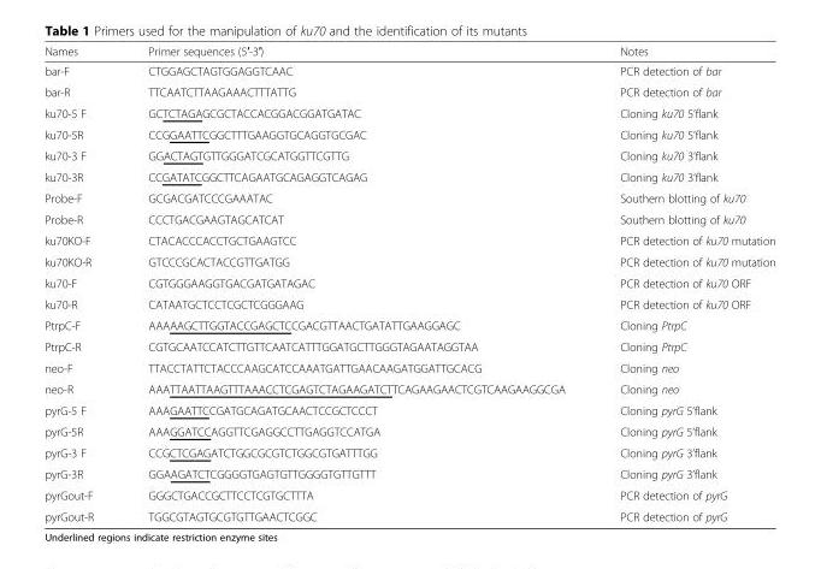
<table><thead><tr><td>Names</td><td>Primer sequences (5′-3′)</td><td>Notes</td></tr></thead><tbody><tr><td>bar-F</td><td>CTGGAGCTAGTGGAGGTCAAC</td><td>PCR detection of bar</td></tr><tr><td>bar-R</td><td>TTCAATCTTAAGAAACTTTATTG</td><td>PCR detection of bar</td></tr><tr><td>ku70-5 F</td><td>GCTCTAGAGCGCTACCACGGACGGATGATAC</td><td>Cloning ku70 5’flank</td></tr><tr><td>ku70-5R</td><td>CCGGAATTCGGCTTTGAAGGTGCAGGTGCGAC</td><td>Cloning ku70 5’flank</td></tr><tr><td>ku70-3 F</td><td>GGACTAGTGTTGGGATCGCATGGTTCGTTG</td><td>Cloning ku70 3’flank</td></tr><tr><td>ku70-3R</td><td>CCGATATCGGCTTCAGAATGCAGAGGTCAGAG</td><td>Cloning ku70 3’flank</td></tr><tr><td>Probe-F</td><td>GCGACGATCCCGAAATAC</td><td>Southern blotting of ku70</td></tr><tr><td>Probe-R</td><td>CCCTGACGAAGTAGCATCAT</td><td>Southern blotting of ku70</td></tr><tr><td>ku70KO-F</td><td>CTACACCCACCTGCTGAAGTCC</td><td>PCR detection of ku70 mutation</td></tr><tr><td>ku70KO-R</td><td>GTCCCGCACTACCGTTGATGG</td><td>PCR detection of ku70 mutation</td></tr><tr><td>ku70-F</td><td>CGTGGGAAGGTGACGATGATAGAC</td><td>PCR detection of ku70 ORF</td></tr><tr><td>ku70-R</td><td>CATAATGCTCCTCGCTCGGGAAG</td><td>PCR detection of ku70 ORF</td></tr><tr><td>PtrpC-F</td><td>AAAAAGCTTGGTACCGAGCTCCGACGTTAACTGATATTGAAGGAGC</td><td>Cloning PtrpC</td></tr><tr><td>PtrpC-R</td><td>CGTGCAATCCATCTTGTTCAATCATTTGGATGCTTGGGTAGAATAGGTAA</td><td>Cloning PtrpC</td></tr><tr><td>neo-F</td><td>TTACCTATTCTACCCAAGCATCCAAATGATTGAACAAGATGGATTGCACG</td><td>Cloning neo</td></tr><tr><td>neo-R</td><td>AAATTAATTAAGTTTAAACCTCGAGTCTAGAAGATCTTCAGAAGAACTCGTCAAGAAGGCGA</td><td>Cloning neo</td></tr><tr><td>pyrG-5 F</td><td>AAAGAATTCCGATGCAGATGCAACTCCGCTCCCT</td><td>Cloning pyrG 5’flank</td></tr><tr><td>pyrG-5R</td><td>AAAGGATCCAGGTTCGAGGCCTTGAGGTCCATGA</td><td>Cloning pyrG 5’flank</td></tr><tr><td>pyrG-3 F</td><td>CCGCTCGAGATCTGGCGCGTCTGGCGTGATTTGG</td><td>Cloning pyrG 3’flank</td></tr><tr><td>pyrG-3R</td><td>GGAAGATCTCGGGGTGAGTGTTGGGGTGTTGTTT</td><td>Cloning pyrG 3’flank</td></tr><tr><td>pyrGout-F</td><td>GGGCTGACCGCTTCCTCGTGCTTTA</td><td>PCR detection of pyrG</td></tr><tr><td>pyrGout-R</td><td>TGGCGTAGTGCGTGTTGAACTCGGC</td><td>PCR detection of pyrG</td></tr></tbody></table>